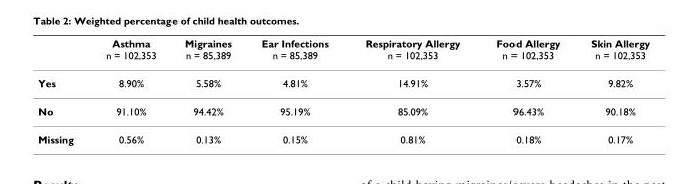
<table><thead><tr><td></td><td>Asthma n = 102,353</td><td>Migraines n = 85,389</td><td>Ear Infections n = 85,389</td><td>Respiratory Allergy n = 102,353</td><td>Food Allergy n = 102,353</td><td>Skin Allergy n = 102,353</td></tr></thead><tbody><tr><td>Yes</td><td>8.90%</td><td>5.58%</td><td>4.81%</td><td>14.91%</td><td>3.57%</td><td>9.82%</td></tr><tr><td>No</td><td>91.10%</td><td>94.42%</td><td>95.19%</td><td>85.09%</td><td>96.43%</td><td>90.18%</td></tr><tr><td>Missing</td><td>0.56%</td><td>0.13%</td><td>0.15%</td><td>0.81%</td><td>0.18%</td><td>0.17%</td></tr></tbody></table>